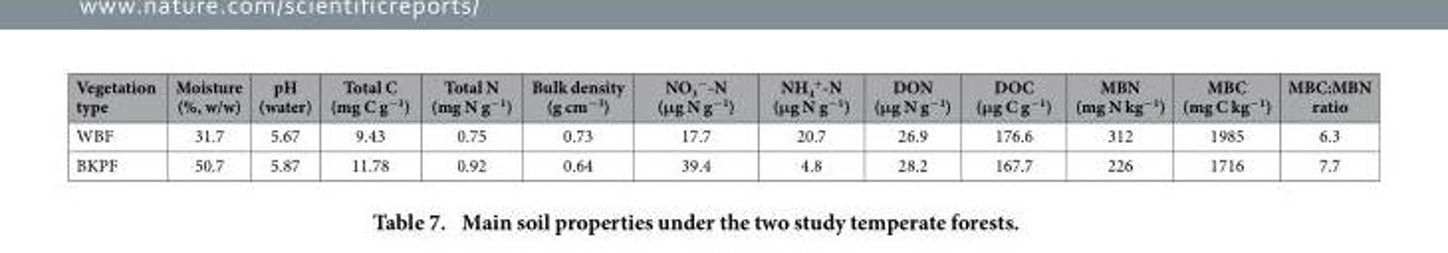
<table><thead><tr><td>Vegetation type</td><td>Moisture (%, w/w)</td><td>pH (water)</td><td>Total C (mg C g<sup>−1</sup>)</td><td>Total N (mg N g<sup>−1</sup>)</td><td>Bulk density (g cm<sup>−3</sup>)</td><td>NO<sub>3</sub> <sup>−</sup>-N (μg N g<sup>−1</sup>)</td><td>NH<sub>4</sub> <sup>+</sup>-N (μg N g<sup>−1</sup>)</td><td>DON (μg N g<sup>−1</sup>)</td><td>DOC (μg C g<sup>−1</sup>)</td><td>MBN (mg N kg<sup>−1</sup>)</td><td>MBC (mg C kg<sup>−1</sup>)</td><td>MBC:MBN ratio</td></tr></thead><tbody><tr><td>WBF</td><td>31.7</td><td>5.67</td><td>9.43</td><td>0.75</td><td>0.73</td><td>17.7</td><td>20.7</td><td>26.9</td><td>176.6</td><td>312</td><td>1985</td><td>6.3</td></tr><tr><td>BKPF</td><td>50.7</td><td>5.87</td><td>11.78</td><td>0.92</td><td>0.64</td><td>39.4</td><td>4.8</td><td>28.2</td><td>167.7</td><td>226</td><td>1716</td><td>7.7</td></tr></tbody></table>